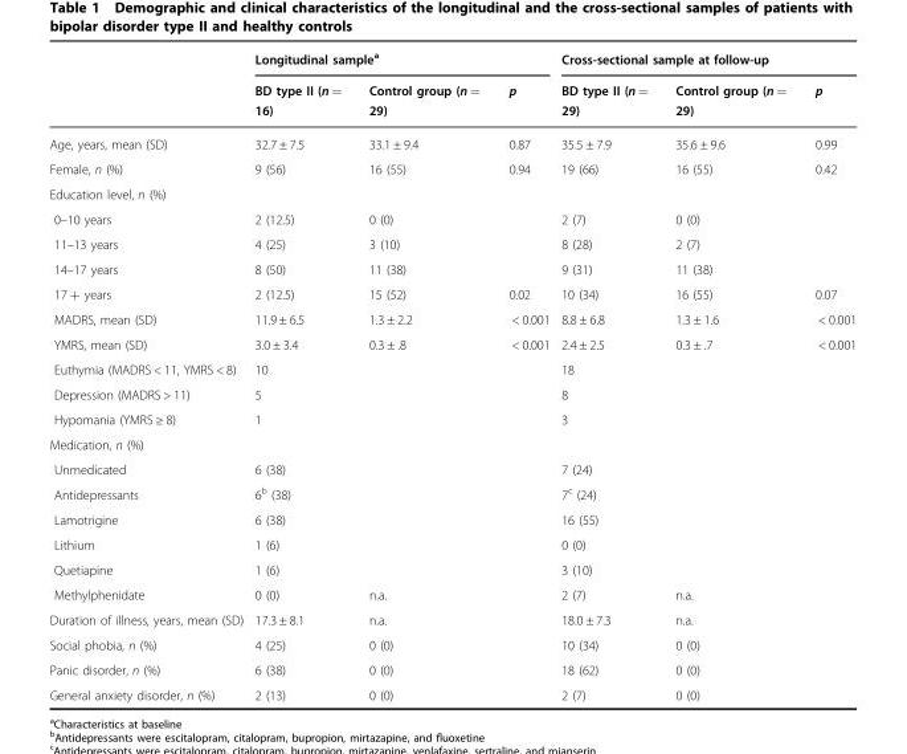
<table><thead><tr><td rowspan="2"></td><td colspan="3">Longitudinal sample<sup>a</sup></td><td colspan="3">Cross-sectional sample at follow-up</td></tr><tr><td>BD type II (n = 16)</td><td>Control group (n = 29)</td><td>p</td><td>BD type II (n = 29)</td><td>Control group (n = 29)</td><td>p</td></tr></thead><tbody><tr><td>Age, years, mean (SD)</td><td>32.7 ± 7.5</td><td>33.1 ± 9.4</td><td>0.87</td><td>35.5 ± 7.9</td><td>35.6 ± 9.6</td><td>0.99</td></tr><tr><td>Female, n (%)</td><td>9 (56)</td><td>16 (55)</td><td>0.94</td><td>19 (66)</td><td>16 (55)</td><td>0.42</td></tr><tr><td colspan="7">Education level, n (%)</td></tr><tr><td>0–10 years</td><td>2 (12.5)</td><td>0 (0)</td><td></td><td>2 (7)</td><td>0 (0)</td><td></td></tr><tr><td>11–13 years</td><td>4 (25)</td><td>3 (10)</td><td></td><td>8 (28)</td><td>2 (7)</td><td></td></tr><tr><td>14–17 years</td><td>8 (50)</td><td>11 (38)</td><td></td><td>9 (31)</td><td>11 (38)</td><td></td></tr><tr><td>17 + years</td><td>2 (12.5)</td><td>15 (52)</td><td>0.02</td><td>10 (34)</td><td>16 (55)</td><td>0.07</td></tr><tr><td>MADRS, mean (SD)</td><td>11.9 ± 6.5</td><td>1.3 ± 2.2</td><td>&lt; 0.001</td><td>8.8 ± 6.8</td><td>1.3 ± 1.6</td><td>&lt; 0.001</td></tr><tr><td>YMRS, mean (SD)</td><td>3.0 ± 3.4</td><td>0.3 ± .8</td><td>&lt; 0.001</td><td>2.4 ± 2.5</td><td>0.3 ± .7</td><td>&lt; 0.001</td></tr><tr><td>Euthymia (MADRS &lt; 11, YMRS &lt; 8)</td><td>10</td><td></td><td></td><td>18</td><td></td><td></td></tr><tr><td>Depression (MADRS &gt; 11)</td><td>5</td><td></td><td></td><td>8</td><td></td><td></td></tr><tr><td>Hypomania (YMRS ≥ 8)</td><td>1</td><td></td><td></td><td>3</td><td></td><td></td></tr><tr><td colspan="7">Medication, n (%)</td></tr><tr><td>Unmedicated</td><td>6 (38)</td><td></td><td></td><td>7 (24)</td><td></td><td></td></tr><tr><td>Antidepressants</td><td>6<sup>b</sup> (38)</td><td></td><td></td><td>7<sup>c</sup> (24)</td><td></td><td></td></tr><tr><td>Lamotrigine</td><td>6 (38)</td><td></td><td></td><td>16 (55)</td><td></td><td></td></tr><tr><td>Lithium</td><td>1 (6)</td><td></td><td></td><td>0 (0)</td><td></td><td></td></tr><tr><td>Quetiapine</td><td>1 (6)</td><td></td><td></td><td>3 (10)</td><td></td><td></td></tr><tr><td>Methylphenidate</td><td>0 (0)</td><td>n.a.</td><td></td><td>2 (7)</td><td>n.a.</td><td></td></tr><tr><td>Duration of illness, years, mean (SD)</td><td>17.3 ± 8.1</td><td>n.a.</td><td></td><td>18.0 ± 7.3</td><td>n.a.</td><td></td></tr><tr><td>Social phobia, n (%)</td><td>4 (25)</td><td>0 (0)</td><td></td><td>10 (34)</td><td>0 (0)</td><td></td></tr><tr><td>Panic disorder, n (%)</td><td>6 (38)</td><td>0 (0)</td><td></td><td>18 (62)</td><td>0 (0)</td><td></td></tr><tr><td>General anxiety disorder, n (%)</td><td>2 (13)</td><td>0 (0)</td><td></td><td>2 (7)</td><td>0 (0)</td><td></td></tr></tbody></table>